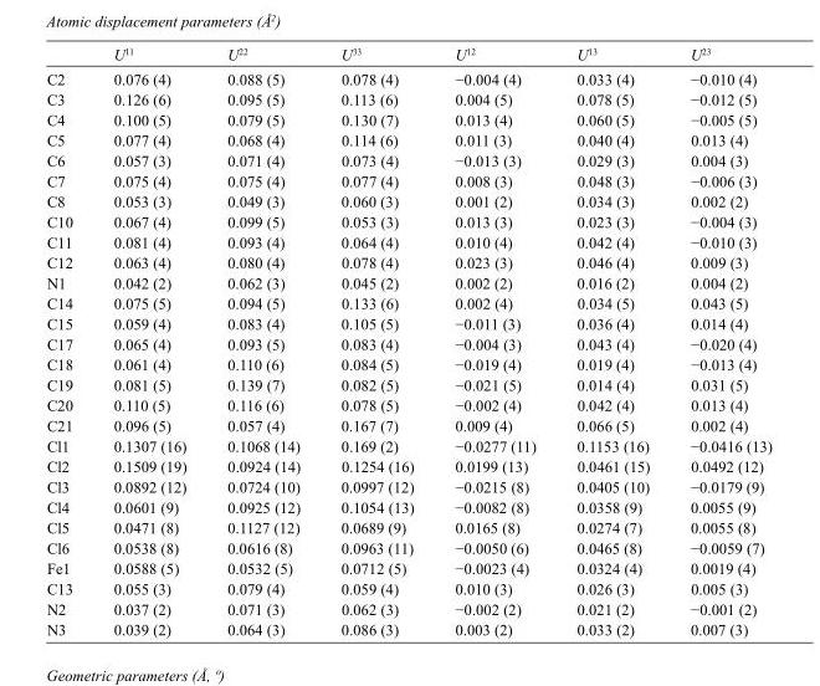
<table><thead><tr><td></td><td>U<sup>11</sup></td><td>U<sup>22</sup></td><td>U<sup>33</sup></td><td>U<sup>12</sup></td><td>U<sup>13</sup></td><td>U<sup>23</sup></td></tr></thead><tbody><tr><td>C2</td><td>0.076 (4)</td><td>0.088 (5)</td><td>0.078 (4)</td><td>−0.004 (4)</td><td>0.033 (4)</td><td>−0.010 (4)</td></tr><tr><td>C3</td><td>0.126 (6)</td><td>0.095 (5)</td><td>0.113 (6)</td><td>0.004 (5)</td><td>0.078 (5)</td><td>−0.012 (5)</td></tr><tr><td>C4</td><td>0.100 (5)</td><td>0.079 (5)</td><td>0.130 (7)</td><td>0.013 (4)</td><td>0.060 (5)</td><td>−0.005 (5)</td></tr><tr><td>C5</td><td>0.077 (4)</td><td>0.068 (4)</td><td>0.114 (6)</td><td>0.011 (3)</td><td>0.040 (4)</td><td>0.013 (4)</td></tr><tr><td>C6</td><td>0.057 (3)</td><td>0.071 (4)</td><td>0.073 (4)</td><td>−0.013 (3)</td><td>0.029 (3)</td><td>0.004 (3)</td></tr><tr><td>C7</td><td>0.075 (4)</td><td>0.075 (4)</td><td>0.077 (4)</td><td>0.008 (3)</td><td>0.048 (3)</td><td>−0.006 (3)</td></tr><tr><td>C8</td><td>0.053 (3)</td><td>0.049 (3)</td><td>0.060 (3)</td><td>0.001 (2)</td><td>0.034 (3)</td><td>0.002 (2)</td></tr><tr><td>C10</td><td>0.067 (4)</td><td>0.099 (5)</td><td>0.053 (3)</td><td>0.013 (3)</td><td>0.023 (3)</td><td>−0.004 (3)</td></tr><tr><td>C11</td><td>0.081 (4)</td><td>0.093 (4)</td><td>0.064 (4)</td><td>0.010 (4)</td><td>0.042 (4)</td><td>−0.010 (3)</td></tr><tr><td>C12</td><td>0.063 (4)</td><td>0.080 (4)</td><td>0.078 (4)</td><td>0.023 (3)</td><td>0.046 (4)</td><td>0.009 (3)</td></tr><tr><td>N1</td><td>0.042 (2)</td><td>0.062 (3)</td><td>0.045 (2)</td><td>0.002 (2)</td><td>0.016 (2)</td><td>0.004 (2)</td></tr><tr><td>C14</td><td>0.075 (5)</td><td>0.094 (5)</td><td>0.133 (6)</td><td>0.002 (4)</td><td>0.034 (5)</td><td>0.043 (5)</td></tr><tr><td>C15</td><td>0.059 (4)</td><td>0.083 (4)</td><td>0.105 (5)</td><td>−0.011 (3)</td><td>0.036 (4)</td><td>0.014 (4)</td></tr><tr><td>C17</td><td>0.065 (4)</td><td>0.093 (5)</td><td>0.083 (4)</td><td>−0.004 (3)</td><td>0.043 (4)</td><td>−0.020 (4)</td></tr><tr><td>C18</td><td>0.061 (4)</td><td>0.110 (6)</td><td>0.084 (5)</td><td>−0.019 (4)</td><td>0.019 (4)</td><td>−0.013 (4)</td></tr><tr><td>C19</td><td>0.081 (5)</td><td>0.139 (7)</td><td>0.082 (5)</td><td>−0.021 (5)</td><td>0.014 (4)</td><td>0.031 (5)</td></tr><tr><td>C20</td><td>0.110 (5)</td><td>0.116 (6)</td><td>0.078 (5)</td><td>−0.002 (4)</td><td>0.042 (4)</td><td>0.013 (4)</td></tr><tr><td>C21</td><td>0.096 (5)</td><td>0.057 (4)</td><td>0.167 (7)</td><td>0.009 (4)</td><td>0.066 (5)</td><td>0.002 (4)</td></tr><tr><td>Cl1</td><td>0.1307 (16)</td><td>0.1068 (14)</td><td>0.169 (2)</td><td>−0.0277 (11)</td><td>0.1153 (16)</td><td>−0.0416 (13)</td></tr><tr><td>Cl2</td><td>0.1509 (19)</td><td>0.0924 (14)</td><td>0.1254 (16)</td><td>0.0199 (13)</td><td>0.0461 (15)</td><td>0.0492 (12)</td></tr><tr><td>Cl3</td><td>0.0892 (12)</td><td>0.0724 (10)</td><td>0.0997 (12)</td><td>−0.0215 (8)</td><td>0.0405 (10)</td><td>−0.0179 (9)</td></tr><tr><td>Cl4</td><td>0.0601 (9)</td><td>0.0925 (12)</td><td>0.1054 (13)</td><td>−0.0082 (8)</td><td>0.0358 (9)</td><td>0.0055 (9)</td></tr><tr><td>Cl5</td><td>0.0471 (8)</td><td>0.1127 (12)</td><td>0.0689 (9)</td><td>0.0165 (8)</td><td>0.0274 (7)</td><td>0.0055 (8)</td></tr><tr><td>Cl6</td><td>0.0538 (8)</td><td>0.0616 (8)</td><td>0.0963 (11)</td><td>−0.0050 (6)</td><td>0.0465 (8)</td><td>−0.0059 (7)</td></tr><tr><td>Fe1</td><td>0.0588 (5)</td><td>0.0532 (5)</td><td>0.0712 (5)</td><td>−0.0023 (4)</td><td>0.0324 (4)</td><td>0.0019 (4)</td></tr><tr><td>C13</td><td>0.055 (3)</td><td>0.079 (4)</td><td>0.059 (4)</td><td>0.010 (3)</td><td>0.026 (3)</td><td>0.005 (3)</td></tr><tr><td>N2</td><td>0.037 (2)</td><td>0.071 (3)</td><td>0.062 (3)</td><td>−0.002 (2)</td><td>0.021 (2)</td><td>−0.001 (2)</td></tr><tr><td>N3</td><td>0.039 (2)</td><td>0.064 (3)</td><td>0.086 (3)</td><td>0.003 (2)</td><td>0.033 (2)</td><td>0.007 (3)</td></tr></tbody></table>